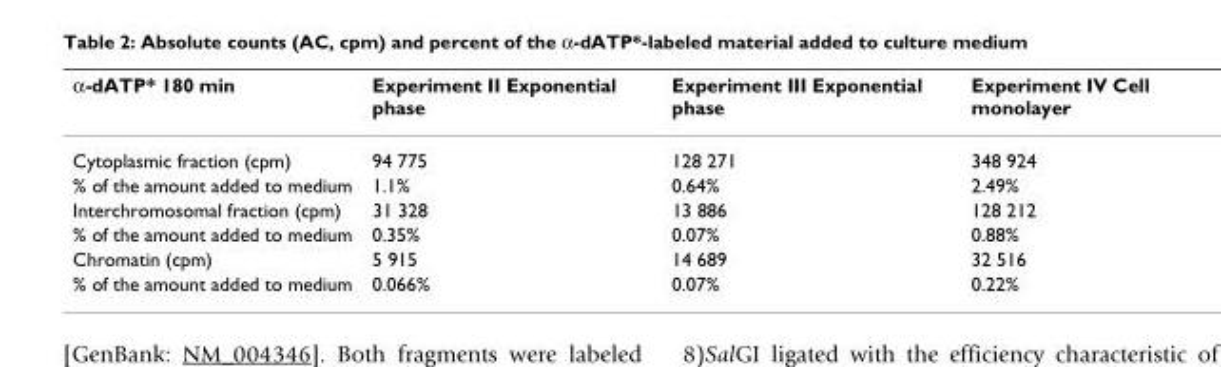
<table><thead><tr><td>α-dATP* 180 min</td><td>Experiment II Exponential phase</td><td>Experiment III Exponential phase</td><td>Experiment IV Cell monolayer</td></tr></thead><tbody><tr><td>Cytoplasmic fraction (cpm)</td><td>94 775</td><td>128 271</td><td>348 924</td></tr><tr><td>% of the amount added to medium</td><td>1.1%</td><td>0.64%</td><td>2.49%</td></tr><tr><td>Interchromosomal fraction (cpm)</td><td>31 328</td><td>13 886</td><td>128 212</td></tr><tr><td>% of the amount added to medium</td><td>0.35%</td><td>0.07%</td><td>0.88%</td></tr><tr><td>Chromatin (cpm)</td><td>5 915</td><td>14 689</td><td>32 516</td></tr><tr><td>% of the amount added to medium</td><td>0.066%</td><td>0.07%</td><td>0.22%</td></tr></tbody></table>